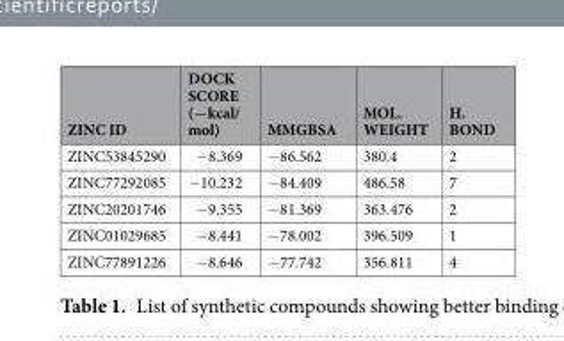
<table><thead><tr><td>ZINC ID</td><td>DOCK SCORE (−kcal/ mol)</td><td>MMGBSA</td><td>MOL. WEIGHT</td><td>H. BOND</td></tr></thead><tbody><tr><td>ZINC53845290</td><td>−8.369</td><td>−86.562</td><td>380.4</td><td>2</td></tr><tr><td>ZINC77292085</td><td>−10.232</td><td>−84.409</td><td>486.58</td><td>7</td></tr><tr><td>ZINC20201746</td><td>−9.355</td><td>−81.369</td><td>363.476</td><td>2</td></tr><tr><td>ZINC01029685</td><td>−8.441</td><td>−78.002</td><td>396.509</td><td>1</td></tr><tr><td>ZINC77891226</td><td>−8.646</td><td>−77.742</td><td>356.811</td><td>4</td></tr></tbody></table>